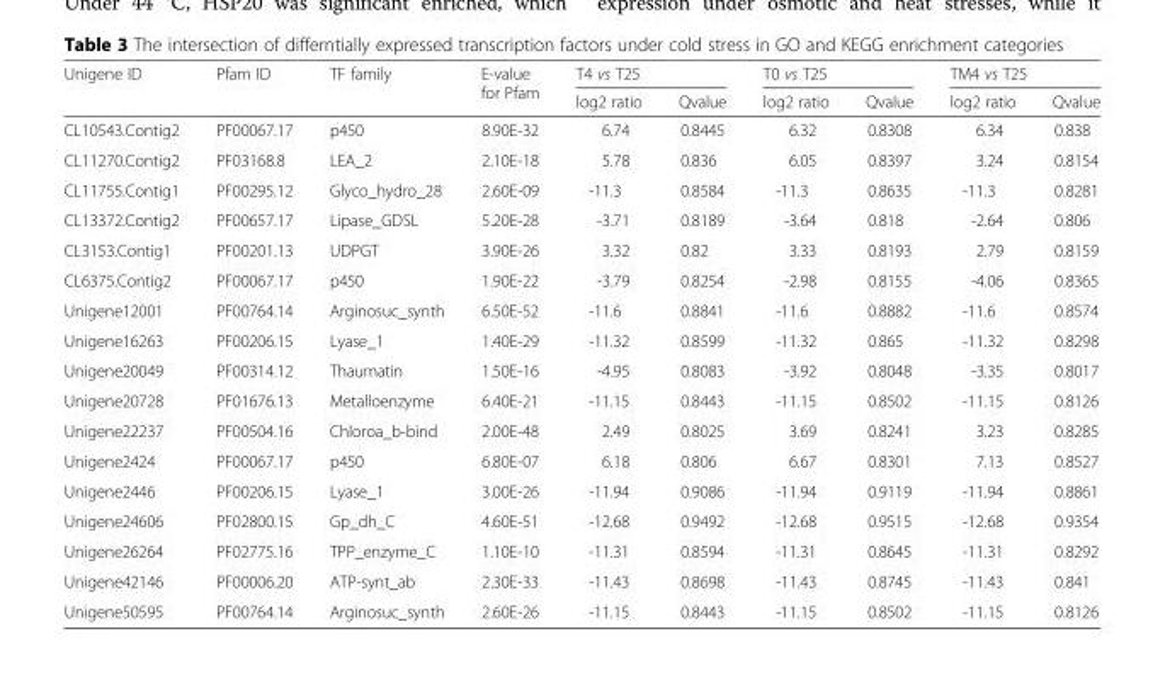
<table><thead><tr><td rowspan="2">Unigene ID</td><td rowspan="2">Pfam ID</td><td rowspan="2">TF family</td><td rowspan="2">E-value for Pfam</td><td colspan="2">T4 vs T25</td><td colspan="2">T0 vs T25</td><td colspan="2">TM4 vs T25</td></tr><tr><td>log2 ratio</td><td>Qvalue</td><td>log2 ratio</td><td>Qvalue</td><td>log2 ratio</td><td>Qvalue</td></tr></thead><tbody><tr><td>CL10543.Contig2</td><td>PF00067.17</td><td>p450</td><td>8.90E-32</td><td>6.74</td><td>0.8445</td><td>6.32</td><td>0.8308</td><td>6.34</td><td>0.838</td></tr><tr><td>CL11270.Contig2</td><td>PF03168.8</td><td>LEA_2</td><td>2.10E-18</td><td>5.78</td><td>0.836</td><td>6.05</td><td>0.8397</td><td>3.24</td><td>0.8154</td></tr><tr><td>CL11755.Contig1</td><td>PF00295.12</td><td>Glyco_hydro_28</td><td>2.60E-09</td><td>-11.3</td><td>0.8584</td><td>-11.3</td><td>0.8635</td><td>-11.3</td><td>0.8281</td></tr><tr><td>CL13372.Contig2</td><td>PF00657.17</td><td>Lipase_GDSL</td><td>5.20E-28</td><td>-3.71</td><td>0.8189</td><td>-3.64</td><td>0.818</td><td>-2.64</td><td>0.806</td></tr><tr><td>CL3153.Contig1</td><td>PF00201.13</td><td>UDPGT</td><td>3.90E-26</td><td>3.32</td><td>0.82</td><td>3.33</td><td>0.8193</td><td>2.79</td><td>0.8159</td></tr><tr><td>CL6375.Contig2</td><td>PF00067.17</td><td>p450</td><td>1.90E-22</td><td>-3.79</td><td>0.8254</td><td>-2.98</td><td>0.8155</td><td>-4.06</td><td>0.8365</td></tr><tr><td>Unigene12001</td><td>PF00764.14</td><td>Arginosuc_synth</td><td>6.50E-52</td><td>-11.6</td><td>0.8841</td><td>-11.6</td><td>0.8882</td><td>-11.6</td><td>0.8574</td></tr><tr><td>Unigene16263</td><td>PF00206.15</td><td>Lyase_1</td><td>1.40E-29</td><td>-11.32</td><td>0.8599</td><td>-11.32</td><td>0.865</td><td>-11.32</td><td>0.8298</td></tr><tr><td>Unigene20049</td><td>PF00314.12</td><td>Thaumatin</td><td>1.50E-16</td><td>-4.95</td><td>0.8083</td><td>-3.92</td><td>0.8048</td><td>-3.35</td><td>0.8017</td></tr><tr><td>Unigene20728</td><td>PF01676.13</td><td>Metalloenzyme</td><td>6.40E-21</td><td>-11.15</td><td>0.8443</td><td>-11.15</td><td>0.8502</td><td>-11.15</td><td>0.8126</td></tr><tr><td>Unigene22237</td><td>PF00504.16</td><td>Chloroa_b-bind</td><td>2.00E-48</td><td>2.49</td><td>0.8025</td><td>3.69</td><td>0.8241</td><td>3.23</td><td>0.8285</td></tr><tr><td>Unigene2424</td><td>PF00067.17</td><td>p450</td><td>6.80E-07</td><td>6.18</td><td>0.806</td><td>6.67</td><td>0.8301</td><td>7.13</td><td>0.8527</td></tr><tr><td>Unigene2446</td><td>PF00206.15</td><td>Lyase_1</td><td>3.00E-26</td><td>-11.94</td><td>0.9086</td><td>-11.94</td><td>0.9119</td><td>-11.94</td><td>0.8861</td></tr><tr><td>Unigene24606</td><td>PF02800.15</td><td>Gp_dh_C</td><td>4.60E-51</td><td>-12.68</td><td>0.9492</td><td>-12.68</td><td>0.9515</td><td>-12.68</td><td>0.9354</td></tr><tr><td>Unigene26264</td><td>PF02775.16</td><td>TPP_enzyme_C</td><td>1.10E-10</td><td>-11.31</td><td>0.8594</td><td>-11.31</td><td>0.8645</td><td>-11.31</td><td>0.8292</td></tr><tr><td>Unigene42146</td><td>PF00006.20</td><td>ATP-synt_ab</td><td>2.30E-33</td><td>-11.43</td><td>0.8698</td><td>-11.43</td><td>0.8745</td><td>-11.43</td><td>0.841</td></tr><tr><td>Unigene50595</td><td>PF00764.14</td><td>Arginosuc_synth</td><td>2.60E-26</td><td>-11.15</td><td>0.8443</td><td>-11.15</td><td>0.8502</td><td>-11.15</td><td>0.8126</td></tr></tbody></table>